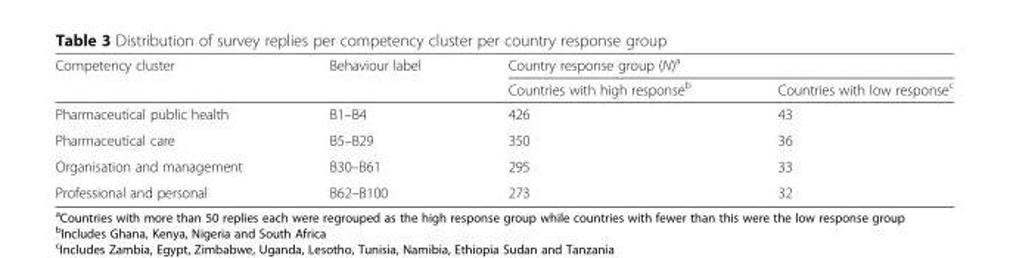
<table><thead><tr><td rowspan="2">Competency cluster</td><td rowspan="2">Behaviour label</td><td colspan="2">Country response group (N)<sup>a</sup></td></tr><tr><td>Countries with high response<sup>b</sup></td><td>Countries with low response<sup>c</sup></td></tr></thead><tbody><tr><td>Pharmaceutical public health</td><td>B1–B4</td><td>426</td><td>43</td></tr><tr><td>Pharmaceutical care</td><td>B5–B29</td><td>350</td><td>36</td></tr><tr><td>Organisation and management</td><td>B30–B61</td><td>295</td><td>33</td></tr><tr><td>Professional and personal</td><td>B62–B100</td><td>273</td><td>32</td></tr></tbody></table>